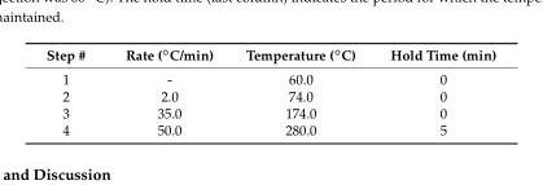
<table><thead><tr><td>Step #</td><td>Rate (◦C/min)</td><td>Temperature (◦C)</td><td>Hold Time (min)</td></tr></thead><tbody><tr><td>1</td><td>-</td><td>60.0</td><td>0</td></tr><tr><td>2</td><td>2.0</td><td>74.0</td><td>0</td></tr><tr><td>3</td><td>35.0</td><td>174.0</td><td>0</td></tr><tr><td>4</td><td>50.0</td><td>280.0</td><td>5</td></tr></tbody></table>